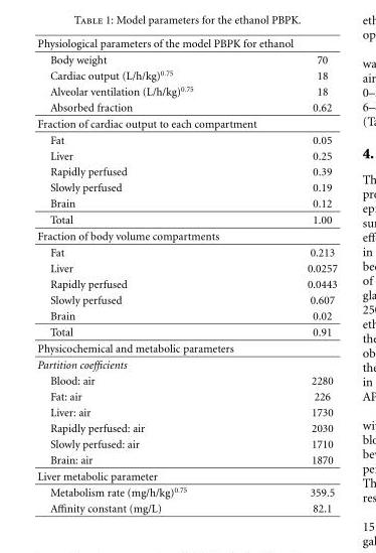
<table><tbody><tr><td colspan="2">Physiological parameters of the model PBPK for ethanol</td></tr><tr><td>Body weight</td><td>70</td></tr><tr><td>Cardiac output (L/h/kg)<sup>0.75</sup></td><td>18</td></tr><tr><td>Alveolar ventilation (L/h/kg)<sup>0.75</sup></td><td>18</td></tr><tr><td>Absorbed fraction</td><td>0.62</td></tr><tr><td colspan="2">Fraction of cardiac output to each compartment</td></tr><tr><td>Fat</td><td>0.05</td></tr><tr><td>Liver</td><td>0.25</td></tr><tr><td>Rapidly perfused</td><td>0.39</td></tr><tr><td>Slowly perfused</td><td>0.19</td></tr><tr><td>Brain</td><td>0.12</td></tr><tr><td>Total</td><td>1.00</td></tr><tr><td colspan="2">Fraction of body volume compartments</td></tr><tr><td>Fat</td><td>0.213</td></tr><tr><td>Liver</td><td>0.0257</td></tr><tr><td>Rapidly perfused</td><td>0.0443</td></tr><tr><td>Slowly perfused</td><td>0.607</td></tr><tr><td>Brain</td><td>0.02</td></tr><tr><td>Total</td><td>0.91</td></tr><tr><td colspan="2">Physicochemical and metabolic parameters</td></tr><tr><td colspan="2">Partition coefficients</td></tr><tr><td>Blood: air</td><td>2280</td></tr><tr><td>Fat: air</td><td>226</td></tr><tr><td>Liver: air</td><td>1730</td></tr><tr><td>Rapidly perfused: air</td><td>2030</td></tr><tr><td>Slowly perfused: air</td><td>1710</td></tr><tr><td>Brain: air</td><td>1870</td></tr><tr><td colspan="2">Liver metabolic parameter</td></tr><tr><td>Metabolism rate (mg/h/kg)<sup>0.75</sup></td><td>359.5</td></tr><tr><td>Affinity constant (mg/L)</td><td>82.1</td></tr></tbody></table>